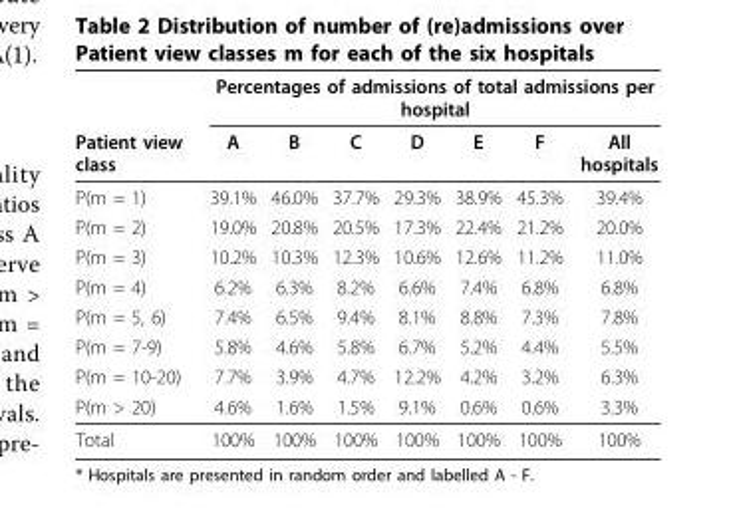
<table><thead><tr><td rowspan="2">Patient view class</td><td colspan="7">Percentages of admissions of total admissions per hospital</td></tr><tr><td>A</td><td>B</td><td>C</td><td>D</td><td>E</td><td>F</td><td>All hospitals</td></tr></thead><tbody><tr><td>P(m = 1)</td><td>39.1%</td><td>46.0%</td><td>37.7%</td><td>29.3%</td><td>38.9%</td><td>45.3%</td><td>39.4%</td></tr><tr><td>P(m = 2)</td><td>19.0%</td><td>20.8%</td><td>20.5%</td><td>17.3%</td><td>22.4%</td><td>21.2%</td><td>20.0%</td></tr><tr><td>P(m = 3)</td><td>10.2%</td><td>10.3%</td><td>12.3%</td><td>10.6%</td><td>12.6%</td><td>11.2%</td><td>11.0%</td></tr><tr><td>P(m = 4)</td><td>6.2%</td><td>6.3%</td><td>8.2%</td><td>6.6%</td><td>7.4%</td><td>6.8%</td><td>6.8%</td></tr><tr><td>P(m = 5, 6)</td><td>7.4%</td><td>6.5%</td><td>9.4%</td><td>8.1%</td><td>8.8%</td><td>7.3%</td><td>7.8%</td></tr><tr><td>P(m = 7-9)</td><td>5.8%</td><td>4.6%</td><td>5.8%</td><td>6.7%</td><td>5.2%</td><td>4.4%</td><td>5.5%</td></tr><tr><td>P(m = 10-20)</td><td>7.7%</td><td>3.9%</td><td>4.7%</td><td>12.2%</td><td>4.2%</td><td>3.2%</td><td>6.3%</td></tr><tr><td>P(m &gt; 20)</td><td>4.6%</td><td>1.6%</td><td>1.5%</td><td>9.1%</td><td>0.6%</td><td>0.6%</td><td>3.3%</td></tr><tr><td>Total</td><td>100%</td><td>100%</td><td>100%</td><td>100%</td><td>100%</td><td>100%</td><td>100%</td></tr></tbody></table>